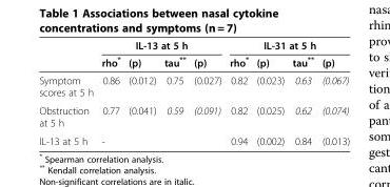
<table><thead><tr><td rowspan="2"></td><td colspan="4">IL-13 at 5 h</td><td colspan="4">IL-31 at 5 h</td></tr><tr><td>rho*</td><td>(p)</td><td>tau**</td><td>(p)</td><td>rho*</td><td>(p)</td><td>tau**</td><td>(p)</td></tr></thead><tbody><tr><td>Symptom scores at 5 h</td><td>0.86</td><td>(0.012)</td><td>0.75</td><td>(0.027)</td><td>0.82</td><td>(0.023)</td><td>0.63</td><td>(0.067)</td></tr><tr><td>Obstruction at 5 h</td><td>0.77</td><td>(0.041)</td><td>0.59</td><td>(0.091)</td><td>0.82</td><td>(0.025)</td><td>0.62</td><td>(0.074)</td></tr><tr><td>IL-13 at 5 h</td><td>-</td><td></td><td></td><td></td><td>0.94</td><td>(0.002)</td><td>0.84</td><td>(0.013)</td></tr></tbody></table>